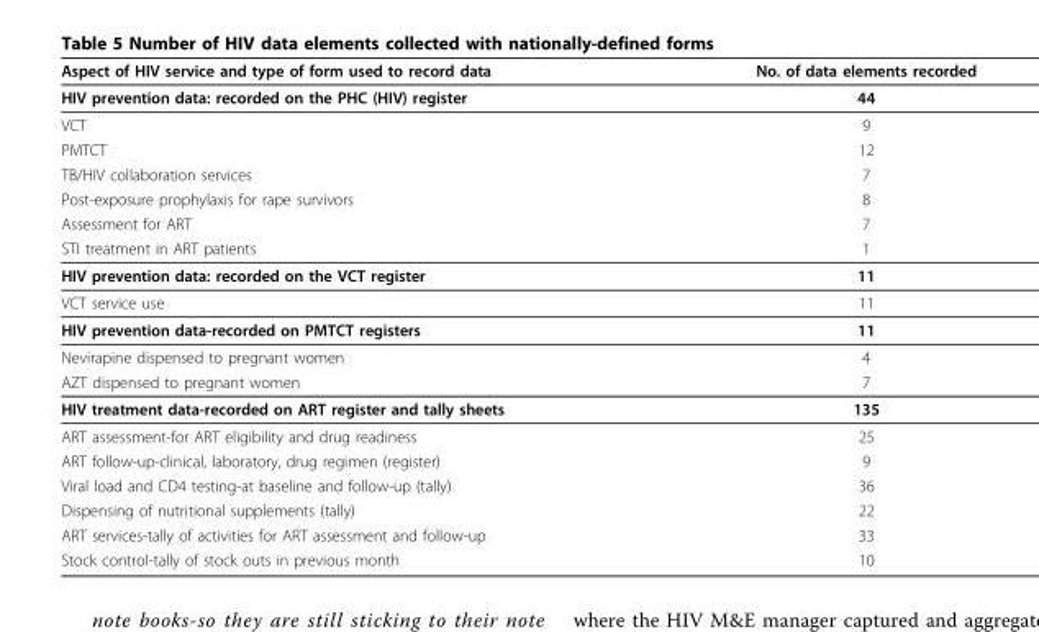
<table><thead><tr><td>Aspect of HIV service and type of form used to record data</td><td>No. of data elements recorded</td></tr></thead><tbody><tr><td>HIV prevention data: recorded on the PHC (HIV) register</td><td>44</td></tr><tr><td>VCT</td><td>9</td></tr><tr><td>PMTCT</td><td>12</td></tr><tr><td>TB/HIV collaboration services</td><td>7</td></tr><tr><td>Post-exposure prophylaxis for rape survivors</td><td>8</td></tr><tr><td>Assessment for ART</td><td>7</td></tr><tr><td>STI treatment in ART patients</td><td>1</td></tr><tr><td>HIV prevention data: recorded on the VCT register</td><td>11</td></tr><tr><td>VCT service use</td><td>11</td></tr><tr><td>HIV prevention data-recorded on PMTCT registers</td><td>11</td></tr><tr><td>Nevirapine dispensed to pregnant women</td><td>4</td></tr><tr><td>AZT dispensed to pregnant women</td><td>7</td></tr><tr><td>HIV treatment data-recorded on ART register and tally sheets</td><td>135</td></tr><tr><td>ART assessment-for ART eligibility and drug readiness</td><td>25</td></tr><tr><td>ART follow-up-clinical, laboratory, drug regimen (register)</td><td>9</td></tr><tr><td>Viral load and CD4 testing-at baseline and follow-up (tally)</td><td>36</td></tr><tr><td>Dispensing of nutritional supplements (tally)</td><td>22</td></tr><tr><td>ART services-tally of activities for ART assessment and follow-up</td><td>33</td></tr><tr><td>Stock control-tally of stock outs in previous month</td><td>10</td></tr></tbody></table>